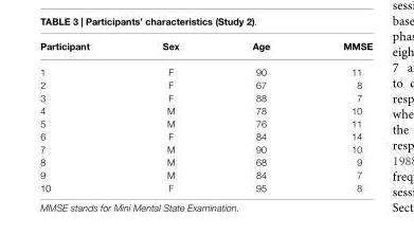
<table><thead><tr><td>Participant</td><td>Sex</td><td>Age</td><td>MMSE</td></tr></thead><tbody><tr><td>1</td><td>F</td><td>90</td><td>11</td></tr><tr><td>2</td><td>F</td><td>67</td><td>8</td></tr><tr><td>3</td><td>F</td><td>88</td><td>7</td></tr><tr><td>4</td><td>M</td><td>78</td><td>10</td></tr><tr><td>5</td><td>M</td><td>76</td><td>11</td></tr><tr><td>6</td><td>F</td><td>84</td><td>14</td></tr><tr><td>7</td><td>M</td><td>90</td><td>10</td></tr><tr><td>8</td><td>M</td><td>68</td><td>9</td></tr><tr><td>9</td><td>M</td><td>84</td><td>7</td></tr><tr><td>10</td><td>F</td><td>95</td><td>8</td></tr></tbody></table>